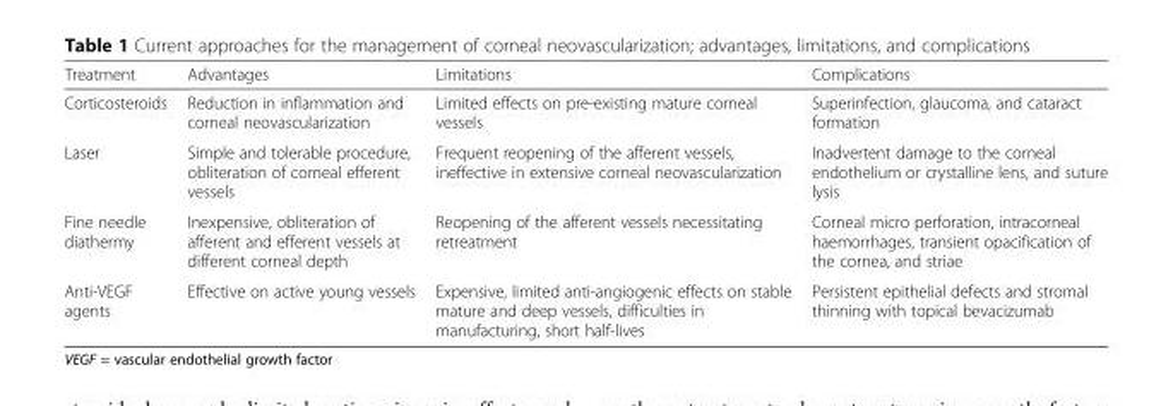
<table><thead><tr><td>Treatment</td><td>Advantages</td><td>Limitations</td><td>Complications</td></tr></thead><tbody><tr><td>Corticosteroids</td><td>Reduction in inflammation and corneal neovascularization</td><td>Limited effects on pre-existing mature corneal vessels</td><td>Superinfection, glaucoma, and cataract formation</td></tr><tr><td>Laser</td><td>Simple and tolerable procedure, obliteration of corneal efferent vessels</td><td>Frequent reopening of the afferent vessels, ineffective in extensive corneal neovascularization</td><td>Inadvertent damage to the corneal endothelium or crystalline lens, and suture lysis</td></tr><tr><td>Fine needle diathermy</td><td>Inexpensive, obliteration of afferent and efferent vessels at different corneal depth</td><td>Reopening of the afferent vessels necessitating retreatment</td><td>Corneal micro perforation, intracorneal haemorrhages, transient opacification of the cornea, and striae</td></tr><tr><td>Anti-VEGF agents</td><td>Effective on active young vessels</td><td>Expensive, limited anti-angiogenic effects on stable mature and deep vessels, difficulties in manufacturing, short half-lives</td><td>Persistent epithelial defects and stromal thinning with topical bevacizumab</td></tr></tbody></table>